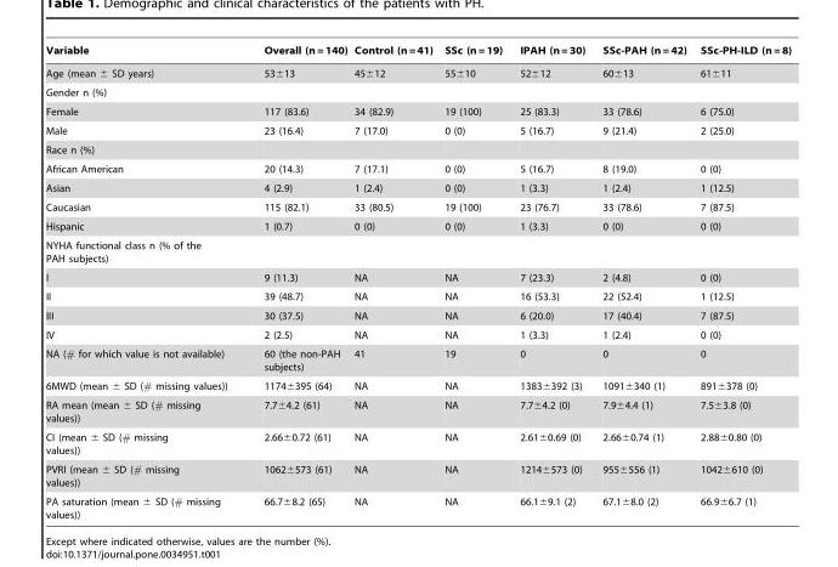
<table><thead><tr><td>Variable</td><td>Overall (n = 140)</td><td>Control (n = 41)</td><td>SSc (n = 19)</td><td>IPAH (n = 30)</td><td>SSc-PAH (n = 42)</td><td>SSc-PH-ILD (n = 8)</td></tr></thead><tbody><tr><td>Age (mean ± SD years)</td><td>53±13</td><td>45±12</td><td>55±10</td><td>52±12</td><td>60±13</td><td>61±11</td></tr><tr><td colspan="7">Gender n (%)</td></tr><tr><td>Female</td><td>117 (83.6)</td><td>34 (82.9)</td><td>19 (100)</td><td>25 (83.3)</td><td>33 (78.6)</td><td>6 (75.0)</td></tr><tr><td>Male</td><td>23 (16.4)</td><td>7 (17.0)</td><td>0 (0)</td><td>5 (16.7)</td><td>9 (21.4)</td><td>2 (25.0)</td></tr><tr><td colspan="7">Race n (%)</td></tr><tr><td>African American</td><td>20 (14.3)</td><td>7 (17.1)</td><td>0 (0)</td><td>5 (16.7)</td><td>8 (19.0)</td><td>0 (0)</td></tr><tr><td>Asian</td><td>4 (2.9)</td><td>1 (2.4)</td><td>0 (0)</td><td>1 (3.3)</td><td>1 (2.4)</td><td>1 (12.5)</td></tr><tr><td>Caucasian</td><td>115 (82.1)</td><td>33 (80.5)</td><td>19 (100)</td><td>23 (76.7)</td><td>33 (78.6)</td><td>7 (87.5)</td></tr><tr><td>Hispanic</td><td>1 (0.7)</td><td>0 (0)</td><td>0 (0)</td><td>1 (3.3)</td><td>0 (0)</td><td>0 (0)</td></tr><tr><td colspan="7">NYHA functional class n (% of the PAH subjects)</td></tr><tr><td>I</td><td>9 (11.3)</td><td>NA</td><td>NA</td><td>7 (23.3)</td><td>2 (4.8)</td><td>0 (0)</td></tr><tr><td>II</td><td>39 (48.7)</td><td>NA</td><td>NA</td><td>16 (53.3)</td><td>22 (52.4)</td><td>1 (12.5)</td></tr><tr><td>III</td><td>30 (37.5)</td><td>NA</td><td>NA</td><td>6 (20.0)</td><td>17 (40.4)</td><td>7 (87.5)</td></tr><tr><td>IV</td><td>2 (2.5)</td><td>NA</td><td>NA</td><td>1 (3.3)</td><td>1 (2.4)</td><td>0 (0)</td></tr><tr><td>NA (# for which value is not available)</td><td>60 (the non-PAH subjects)</td><td>41</td><td>19</td><td>0</td><td>0</td><td>0</td></tr><tr><td>6MWD (mean ± SD (# missing values))</td><td>1174±395 (64)</td><td>NA</td><td>NA</td><td>1383±392 (3)</td><td>1091±340 (1)</td><td>891±378 (0)</td></tr><tr><td>RA mean (mean ± SD (# missing values))</td><td>7.7±4.2 (61)</td><td>NA</td><td>NA</td><td>7.7±4.2 (0)</td><td>7.9±4.4 (1)</td><td>7.5±3.8 (0)</td></tr><tr><td>CI (mean ± SD (# missing values))</td><td>2.66±0.72 (61)</td><td>NA</td><td>NA</td><td>2.61±0.69 (0)</td><td>2.66±0.74 (1)</td><td>2.88±0.80 (0)</td></tr><tr><td>PVRI (mean ± SD (# missing values))</td><td>1062±573 (61)</td><td>NA</td><td>NA</td><td>1214±573 (0)</td><td>955±556 (1)</td><td>1042±610 (0)</td></tr><tr><td>PA saturation (mean ± SD (# missing values))</td><td>66.7±8.2 (65)</td><td>NA</td><td>NA</td><td>66.1±9.1 (2)</td><td>67.1±8.0 (2)</td><td>66.9±6.7 (1)</td></tr></tbody></table>